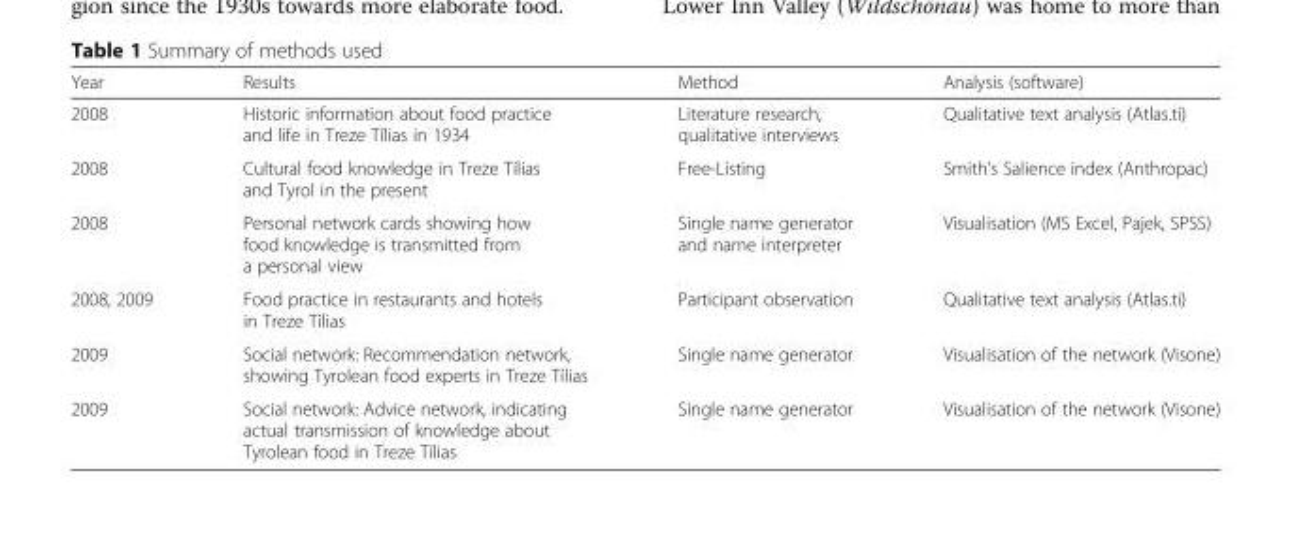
<table><thead><tr><td>Year</td><td>Results</td><td>Method</td><td>Analysis (software)</td></tr></thead><tbody><tr><td>2008</td><td>Historic information about food practice and life in Treze Tílias in 1934</td><td>Literature research, qualitative interviews</td><td>Qualitative text analysis (Atlas.ti)</td></tr><tr><td>2008</td><td>Cultural food knowledge in Treze Tílias and Tyrol in the present</td><td>Free-Listing</td><td>Smith’s Salience index (Anthropac)</td></tr><tr><td>2008</td><td>Personal network cards showing how food knowledge is transmitted from a personal view</td><td>Single name generator and name interpreter</td><td>Visualisation (MS Excel, Pajek, SPSS)</td></tr><tr><td>2008, 2009</td><td>Food practice in restaurants and hotels in Treze Tílias</td><td>Participant observation</td><td>Qualitative text analysis (Atlas.ti)</td></tr><tr><td>2009</td><td>Social network: Recommendation network, showing Tyrolean food experts in Treze Tílias</td><td>Single name generator</td><td>Visualisation of the network (Visone)</td></tr><tr><td>2009</td><td>Social network: Advice network, indicating actual transmission of knowledge about Tyrolean food in Treze Tílias</td><td>Single name generator</td><td>Visualisation of the network (Visone)</td></tr></tbody></table>